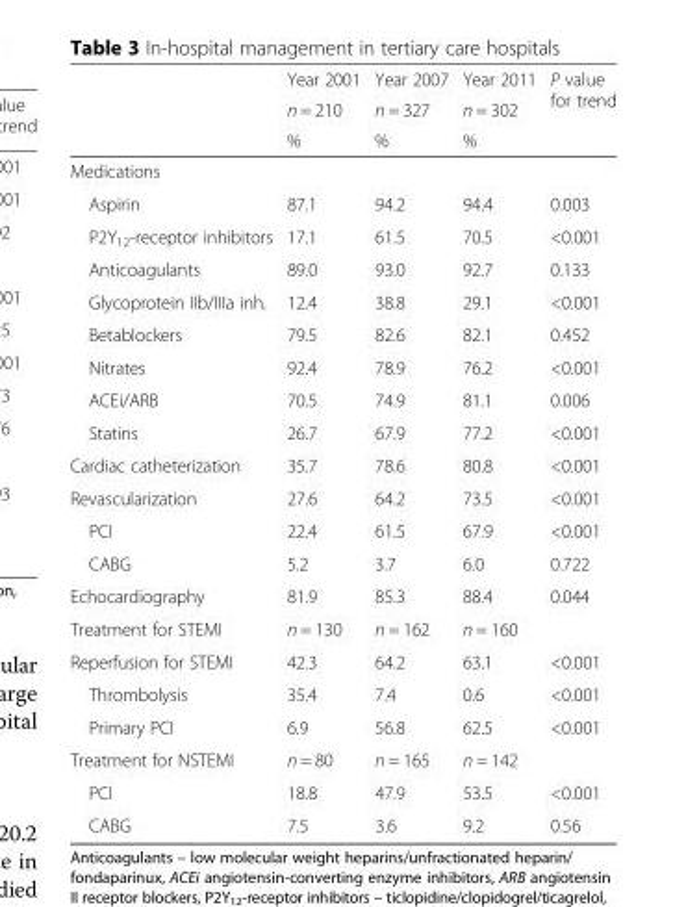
<table><thead><tr><td rowspan="3"></td><td rowspan="3">Year 2001 n = 210 %</td><td rowspan="3">Year 2007 n = 327 %</td><td rowspan="3">Year 2011 n = 302 %</td><td rowspan="3">P value for trend</td></tr><tr></tr><tr></tr></thead><tbody><tr><td colspan="5">Medications</td></tr><tr><td>Aspirin</td><td>87.1</td><td>94.2</td><td>94.4</td><td>0.003</td></tr><tr><td>P2Y<sub>12</sub>-receptor inhibitors</td><td>17.1</td><td>61.5</td><td>70.5</td><td>&lt;0.001</td></tr><tr><td>Anticoagulants</td><td>89.0</td><td>93.0</td><td>92.7</td><td>0.133</td></tr><tr><td>Glycoprotein IIb/IIIa inh.</td><td>12.4</td><td>38.8</td><td>29.1</td><td>&lt;0.001</td></tr><tr><td>Betablockers</td><td>79.5</td><td>82.6</td><td>82.1</td><td>0.452</td></tr><tr><td>Nitrates</td><td>92.4</td><td>78.9</td><td>76.2</td><td>&lt;0.001</td></tr><tr><td>ACEi/ARB</td><td>70.5</td><td>74.9</td><td>81.1</td><td>0.006</td></tr><tr><td>Statins</td><td>26.7</td><td>67.9</td><td>77.2</td><td>&lt;0.001</td></tr><tr><td>Cardiac catheterization</td><td>35.7</td><td>78.6</td><td>80.8</td><td>&lt;0.001</td></tr><tr><td>Revascularization</td><td>27.6</td><td>64.2</td><td>73.5</td><td>&lt;0.001</td></tr><tr><td>PCI</td><td>22.4</td><td>61.5</td><td>67.9</td><td>&lt;0.001</td></tr><tr><td>CABG</td><td>5.2</td><td>3.7</td><td>6.0</td><td>0.722</td></tr><tr><td>Echocardiography</td><td>81.9</td><td>85.3</td><td>88.4</td><td>0.044</td></tr><tr><td>Treatment for STEMI</td><td>n = 130</td><td>n = 162</td><td>n = 160</td><td></td></tr><tr><td>Reperfusion for STEMI</td><td>42.3</td><td>64.2</td><td>63.1</td><td>&lt;0.001</td></tr><tr><td>Thrombolysis</td><td>35.4</td><td>7.4</td><td>0.6</td><td>&lt;0.001</td></tr><tr><td>Primary PCI</td><td>6.9</td><td>56.8</td><td>62.5</td><td>&lt;0.001</td></tr><tr><td>Treatment for NSTEMI</td><td>n = 80</td><td>n = 165</td><td>n = 142</td><td></td></tr><tr><td>PCI</td><td>18.8</td><td>47.9</td><td>53.5</td><td>&lt;0.001</td></tr><tr><td>CABG</td><td>7.5</td><td>3.6</td><td>9.2</td><td>0.56</td></tr></tbody></table>